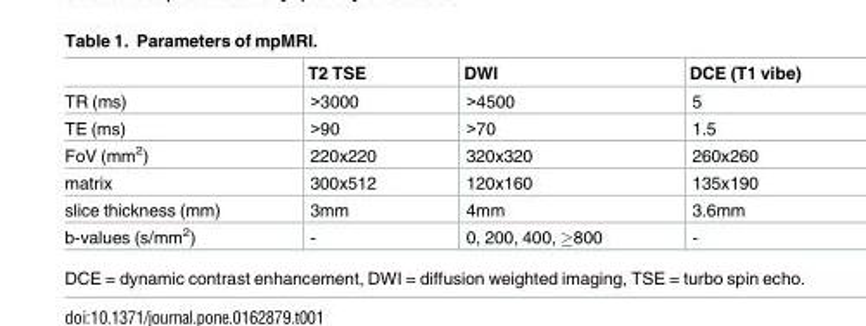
<table><thead><tr><td></td><td>T2 TSE</td><td>DWI</td><td>DCE (T1 vibe)</td></tr></thead><tbody><tr><td>TR (ms)</td><td>&gt;3000</td><td>&gt;4500</td><td>5</td></tr><tr><td>TE (ms)</td><td>&gt;90</td><td>&gt;70</td><td>1.5</td></tr><tr><td>FoV (mm<sup>2</sup>)</td><td>220x220</td><td>320x320</td><td>260x260</td></tr><tr><td>matrix</td><td>300x512</td><td>120x160</td><td>135x190</td></tr><tr><td>slice thickness (mm)</td><td>3mm</td><td>4mm</td><td>3.6mm</td></tr><tr><td>b-values (s/mm<sup>2</sup>)</td><td>-</td><td>0, 200, 400, ≥800</td><td>-</td></tr></tbody></table>